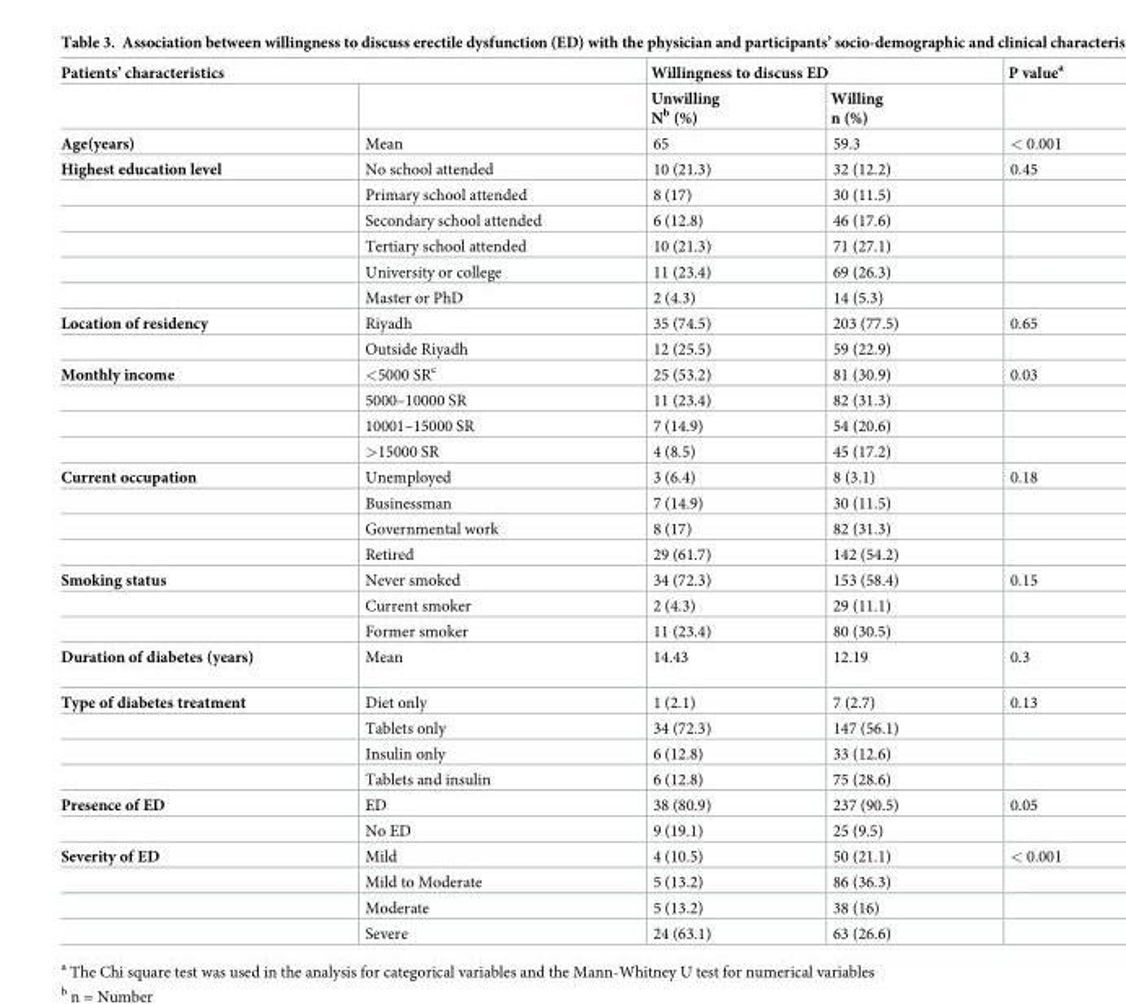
<table><thead><tr><td colspan="2">Patients’ characteristics</td><td colspan="2">Willingness to discuss ED</td><td rowspan="2">P value<sup>a</sup></td></tr><tr><td></td><td></td><td>Unwilling N<sup>b</sup> (%)</td><td>Willing n (%)</td></tr></thead><tbody><tr><td>Age(years)</td><td>Mean</td><td>65</td><td>59.3</td><td>&lt; 0.001</td></tr><tr><td rowspan="6">Highest education level</td><td>No school attended</td><td>10 (21.3)</td><td>32 (12.2)</td><td>0.45</td></tr><tr><td>Primary school attended</td><td>8 (17)</td><td>30 (11.5)</td><td></td></tr><tr><td>Secondary school attended</td><td>6 (12.8)</td><td>46 (17.6)</td><td></td></tr><tr><td>Tertiary school attended</td><td>10 (21.3)</td><td>71 (27.1)</td><td></td></tr><tr><td>University or college</td><td>11 (23.4)</td><td>69 (26.3)</td><td></td></tr><tr><td>Master or PhD</td><td>2 (4.3)</td><td>14 (5.3)</td><td></td></tr><tr><td rowspan="2">Location of residency</td><td>Riyadh</td><td>35 (74.5)</td><td>203 (77.5)</td><td>0.65</td></tr><tr><td>Outside Riyadh</td><td>12 (25.5)</td><td>59 (22.9)</td><td></td></tr><tr><td rowspan="4">Monthly income</td><td>&lt;5000 SR<sup>c</sup></td><td>25 (53.2)</td><td>81 (30.9)</td><td>0.03</td></tr><tr><td>5000–10000 SR</td><td>11 (23.4)</td><td>82 (31.3)</td><td></td></tr><tr><td>10001–15000 SR</td><td>7 (14.9)</td><td>54 (20.6)</td><td></td></tr><tr><td>&gt;15000 SR</td><td>4 (8.5)</td><td>45 (17.2)</td><td></td></tr><tr><td rowspan="4">Current occupation</td><td>Unemployed</td><td>3 (6.4)</td><td>8 (3.1)</td><td>0.18</td></tr><tr><td>Businessman</td><td>7 (14.9)</td><td>30 (11.5)</td><td></td></tr><tr><td>Governmental work</td><td>8 (17)</td><td>82 (31.3)</td><td></td></tr><tr><td>Retired</td><td>29 (61.7)</td><td>142 (54.2)</td><td></td></tr><tr><td rowspan="3">Smoking status</td><td>Never smoked</td><td>34 (72.3)</td><td>153 (58.4)</td><td>0.15</td></tr><tr><td>Current smoker</td><td>2 (4.3)</td><td>29 (11.1)</td><td></td></tr><tr><td>Former smoker</td><td>11 (23.4)</td><td>80 (30.5)</td><td></td></tr><tr><td>Duration of diabetes (years)</td><td>Mean</td><td>14.43</td><td>12.19</td><td>0.3</td></tr><tr><td rowspan="4">Type of diabetes treatment</td><td>Diet only</td><td>1 (2.1)</td><td>7 (2.7)</td><td>0.13</td></tr><tr><td>Tablets only</td><td>34 (72.3)</td><td>147 (56.1)</td><td></td></tr><tr><td>Insulin only</td><td>6 (12.8)</td><td>33 (12.6)</td><td></td></tr><tr><td>Tablets and insulin</td><td>6 (12.8)</td><td>75 (28.6)</td><td></td></tr><tr><td rowspan="2">Presence of ED</td><td>ED</td><td>38 (80.9)</td><td>237 (90.5)</td><td>0.05</td></tr><tr><td>No ED</td><td>9 (19.1)</td><td>25 (9.5)</td><td></td></tr><tr><td rowspan="4">Severity of ED</td><td>Mild</td><td>4 (10.5)</td><td>50 (21.1)</td><td>&lt; 0.001</td></tr><tr><td>Mild to Moderate</td><td>5 (13.2)</td><td>86 (36.3)</td><td></td></tr><tr><td>Moderate</td><td>5 (13.2)</td><td>38 (16)</td><td></td></tr><tr><td>Severe</td><td>24 (63.1)</td><td>63 (26.6)</td><td></td></tr></tbody></table>